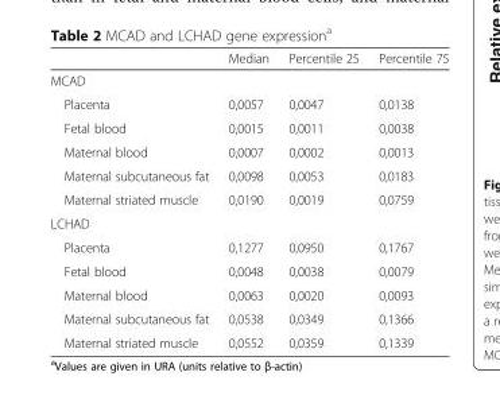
<table><thead><tr><td></td><td>Median</td><td>Percentile 25</td><td>Percentile 75</td></tr></thead><tbody><tr><td colspan="4">MCAD</td></tr><tr><td>Placenta</td><td>0,0057</td><td>0,0047</td><td>0,0138</td></tr><tr><td>Fetal blood</td><td>0,0015</td><td>0,0011</td><td>0,0038</td></tr><tr><td>Maternal blood</td><td>0,0007</td><td>0,0002</td><td>0,0013</td></tr><tr><td>Maternal subcutaneous fat</td><td>0,0098</td><td>0,0053</td><td>0,0183</td></tr><tr><td>Maternal striated muscle</td><td>0,0190</td><td>0,0019</td><td>0,0759</td></tr><tr><td colspan="4">LCHAD</td></tr><tr><td>Placenta</td><td>0,1277</td><td>0,0950</td><td>0,1767</td></tr><tr><td>Fetal blood</td><td>0,0048</td><td>0,0038</td><td>0,0079</td></tr><tr><td>Maternal blood</td><td>0,0063</td><td>0,0020</td><td>0,0093</td></tr><tr><td>Maternal subcutaneous fat</td><td>0,0538</td><td>0,0349</td><td>0,1366</td></tr><tr><td>Maternal striated muscle</td><td>0,0552</td><td>0,0359</td><td>0,1339</td></tr></tbody></table>